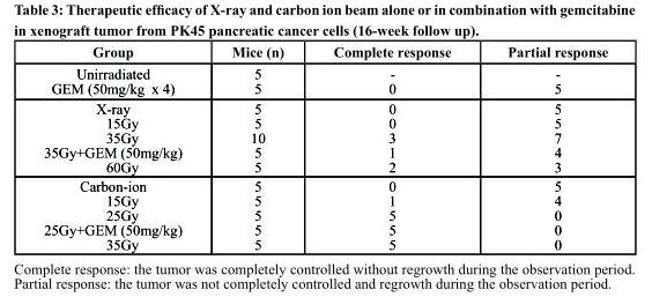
<table><thead><tr><td>Group</td><td>Mice (n)</td><td>Complete response</td><td>Partial response</td></tr></thead><tbody><tr><td>Unirradiated GEM (50mg/kg x 4)</td><td>5 5</td><td>- 0</td><td>- 5</td></tr><tr><td>X-ray 15Gy 35Gy 35Gy+GEM (50mg/kg) 60Gy</td><td>5 5 10 5 5</td><td>0 0 3 1 2</td><td>5 5 7 4 3</td></tr><tr><td>Carbon-ion 15Gy 25Gy 25Gy+GEM (50mg/kg) 35Gy</td><td>5 5 5 5 5</td><td>0 1 5 5 5</td><td>5 4 0 0 0</td></tr></tbody></table>